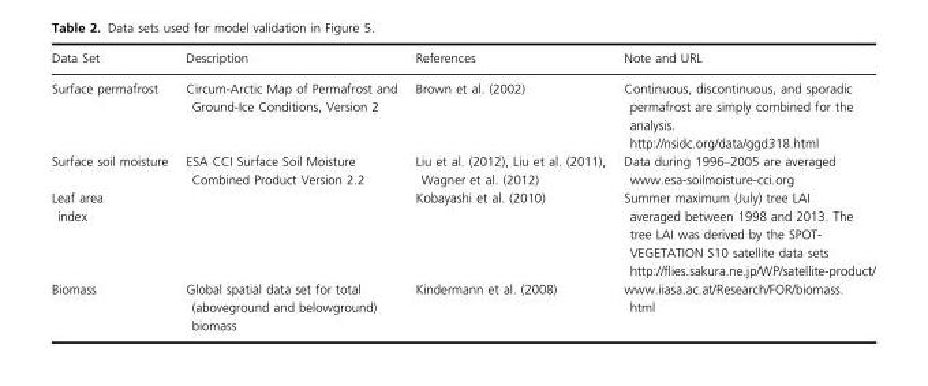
<table><thead><tr><td>Data Set</td><td>Description</td><td>References</td><td>Note and URL</td></tr></thead><tbody><tr><td>Surface permafrost</td><td>Circum-Arctic Map of Permafrost and Ground-Ice Conditions, Version 2</td><td>Brown et al. (2002)</td><td>Continuous, discontinuous, and sporadic permafrost are simply combined for the analysis. http://nsidc.org/data/ggd318.html</td></tr><tr><td>Surface soil moisture</td><td>ESA CCI Surface Soil Moisture Combined Product Version 2.2</td><td>Liu et al. (2012), Liu et al. (2011), Wagner et al. (2012)</td><td>Data during 1996–2005 are averaged www.esa-soilmoisture-cci.org</td></tr><tr><td>Leaf area index</td><td></td><td>Kobayashi et al. (2010)</td><td>Summer maximum (July) tree LAI averaged between 1998 and 2013. The tree LAI was derived by the SPOT- VEGETATION S10 satellite data sets http://flies.sakura.ne.jp/WP/satellite-product/</td></tr><tr><td>Biomass</td><td>Global spatial data set for total (aboveground and belowground) biomass</td><td>Kindermann et al. (2008)</td><td>www.iiasa.ac.at/Research/FOR/biomass. html</td></tr></tbody></table>